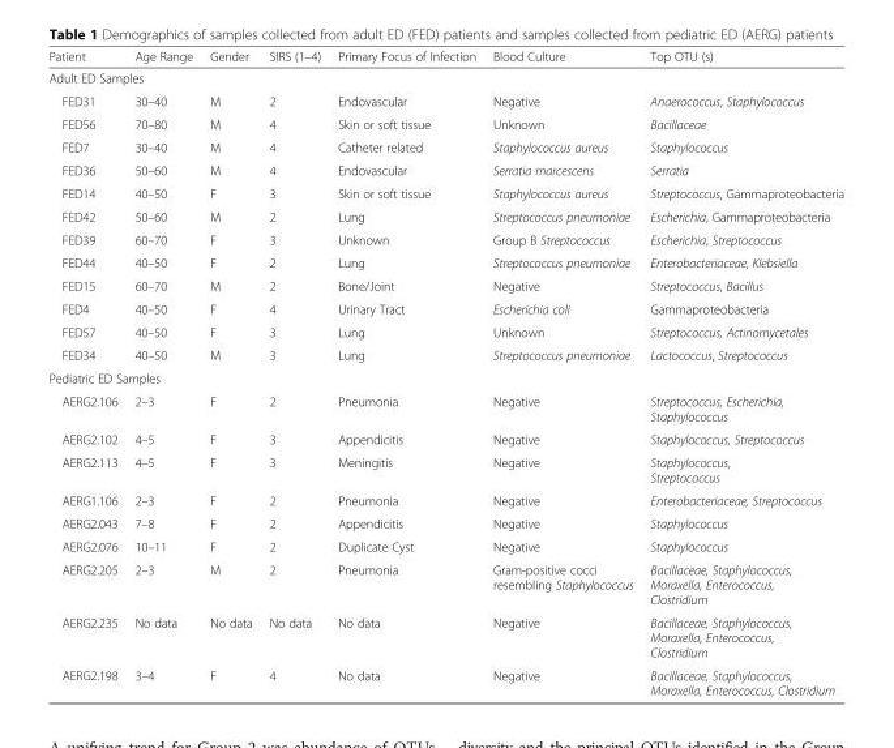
<table><thead><tr><td>Patient</td><td>Age Range</td><td>Gender</td><td>SIRS (1–4)</td><td>Primary Focus of Infection</td><td>Blood Culture</td><td>Top OTU (s)</td></tr></thead><tbody><tr><td colspan="7">Adult ED Samples</td></tr><tr><td>FED31</td><td>30–40</td><td>M</td><td>2</td><td>Endovascular</td><td>Negative</td><td>Anaerococcus, Staphylococcus</td></tr><tr><td>FED56</td><td>70–80</td><td>M</td><td>4</td><td>Skin or soft tissue</td><td>Unknown</td><td>Bacillaceae</td></tr><tr><td>FED7</td><td>30–40</td><td>M</td><td>4</td><td>Catheter related</td><td>Staphylococcus aureus</td><td>Staphylococcus</td></tr><tr><td>FED36</td><td>50–60</td><td>M</td><td>4</td><td>Endovascular</td><td>Serratia marcescens</td><td>Serratia</td></tr><tr><td>FED14</td><td>40–50</td><td>F</td><td>3</td><td>Skin or soft tissue</td><td>Staphylococcus aureus</td><td>Streptococcus, Gammaproteobacteria</td></tr><tr><td>FED42</td><td>50–60</td><td>M</td><td>2</td><td>Lung</td><td>Streptococcus pneumoniae</td><td>Escherichia, Gammaproteobacteria</td></tr><tr><td>FED39</td><td>60–70</td><td>F</td><td>3</td><td>Unknown</td><td>Group B Streptococcus</td><td>Escherichia, Streptococcus</td></tr><tr><td>FED44</td><td>40–50</td><td>F</td><td>2</td><td>Lung</td><td>Streptococcus pneumoniae</td><td>Enterobacteriaceae, Klebsiella</td></tr><tr><td>FED15</td><td>60–70</td><td>M</td><td>2</td><td>Bone/Joint</td><td>Negative</td><td>Streptococcus, Bacillus</td></tr><tr><td>FED4</td><td>40–50</td><td>F</td><td>4</td><td>Urinary Tract</td><td>Escherichia coli</td><td>Gammaproteobacteria</td></tr><tr><td>FED57</td><td>40–50</td><td>F</td><td>3</td><td>Lung</td><td>Unknown</td><td>Streptococcus, Actinomycetales</td></tr><tr><td>FED34</td><td>40–50</td><td>M</td><td>3</td><td>Lung</td><td>Streptococcus pneumoniae</td><td>Lactococcus, Streptococcus</td></tr><tr><td colspan="7">Pediatric ED Samples</td></tr><tr><td>AERG2.106</td><td>2–3</td><td>F</td><td>2</td><td>Pneumonia</td><td>Negative</td><td>Streptococcus, Escherichia, Staphylococcus</td></tr><tr><td>AERG2.102</td><td>4–5</td><td>F</td><td>3</td><td>Appendicitis</td><td>Negative</td><td>Staphylococcus, Streptococcus</td></tr><tr><td>AERG2.113</td><td>4–5</td><td>F</td><td>3</td><td>Meningitis</td><td>Negative</td><td>Staphylococcus, Streptococcus</td></tr><tr><td>AERG1.106</td><td>2–3</td><td>F</td><td>2</td><td>Pneumonia</td><td>Negative</td><td>Enterobacteriaceae, Streptococcus</td></tr><tr><td>AERG2.043</td><td>7–8</td><td>F</td><td>2</td><td>Appendicitis</td><td>Negative</td><td>Staphylococcus</td></tr><tr><td>AERG2.076</td><td>10–11</td><td>F</td><td>2</td><td>Duplicate Cyst</td><td>Negative</td><td>Staphylococcus</td></tr><tr><td>AERG2.205</td><td>2–3</td><td>M</td><td>2</td><td>Pneumonia</td><td>Gram-positive cocci resembling Staphylococcus</td><td>Bacillaceae, Staphylococcus, Moraxella, Enterococcus, Clostridium</td></tr><tr><td>AERG2.235</td><td>No data</td><td>No data</td><td>No data</td><td>No data</td><td>Negative</td><td>Bacillaceae, Staphylococcus, Moraxella, Enterococcus, Clostridium</td></tr><tr><td>AERG2.198</td><td>3–4</td><td>F</td><td>4</td><td>No data</td><td>Negative</td><td>Bacillaceae, Staphylococcus, Moraxella, Enterococcus, Clostridium</td></tr></tbody></table>